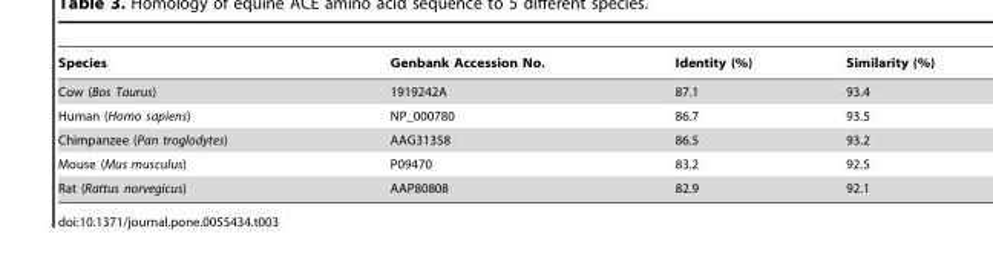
<table><thead><tr><td>Species</td><td>Genbank Accession No.</td><td>Identity (%)</td><td>Similarity (%)</td></tr></thead><tbody><tr><td>Cow (Bos Taurus)</td><td>1919242A</td><td>87.1</td><td>93.4</td></tr><tr><td>Human (Homo sapiens)</td><td>NP_000780</td><td>86.7</td><td>93.5</td></tr><tr><td>Chimpanzee (Pan troglodytes)</td><td>AAG31358</td><td>86.5</td><td>93.2</td></tr><tr><td>Mouse (Mus musculus)</td><td>P09470</td><td>83.2</td><td>92.5</td></tr><tr><td>Rat (Rattus norvegicus)</td><td>AAP80808</td><td>82.9</td><td>92.1</td></tr></tbody></table>